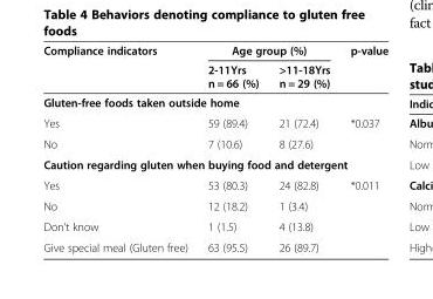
<table><thead><tr><td rowspan="2">Compliance indicators</td><td colspan="2">Age group (%)</td><td rowspan="2">p-value</td></tr><tr><td>2-11Yrs n = 66 (%)</td><td>&gt;11-18Yrs n = 29 (%)</td></tr></thead><tbody><tr><td colspan="4">Gluten-free foods taken outside home</td></tr><tr><td>Yes</td><td>59 (89.4)</td><td>21 (72.4)</td><td rowspan="2">*0.037</td></tr><tr><td>No</td><td>7 (10.6)</td><td>8 (27.6)</td></tr><tr><td colspan="4">Caution regarding gluten when buying food and detergent</td></tr><tr><td>Yes</td><td>53 (80.3)</td><td>24 (82.8)</td><td rowspan="3">*0.011</td></tr><tr><td>No</td><td>12 (18.2)</td><td>1 (3.4)</td></tr><tr><td>Don’t know</td><td>1 (1.5)</td><td>4 (13.8)</td></tr><tr><td>Give special meal (Gluten free)</td><td>63 (95.5)</td><td>26 (89.7)</td><td></td></tr></tbody></table>